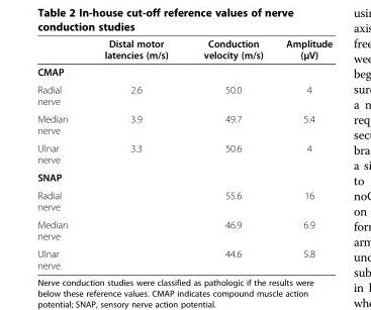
<table><thead><tr><td></td><td>Distal motor latencies (m/s)</td><td>Conduction velocity (m/s)</td><td>Amplitude (μV)</td></tr></thead><tbody><tr><td colspan="4">CMAP</td></tr><tr><td>Radial nerve</td><td>2.6</td><td>50.0</td><td>4</td></tr><tr><td>Median nerve</td><td>3.9</td><td>49.7</td><td>5.4</td></tr><tr><td>Ulnar nerve</td><td>3.3</td><td>50.6</td><td>4</td></tr><tr><td colspan="4">SNAP</td></tr><tr><td>Radial nerve</td><td></td><td>55.6</td><td>16</td></tr><tr><td>Median nerve</td><td></td><td>46.9</td><td>6.9</td></tr><tr><td>Ulnar nerve</td><td></td><td>44.6</td><td>5.8</td></tr></tbody></table>